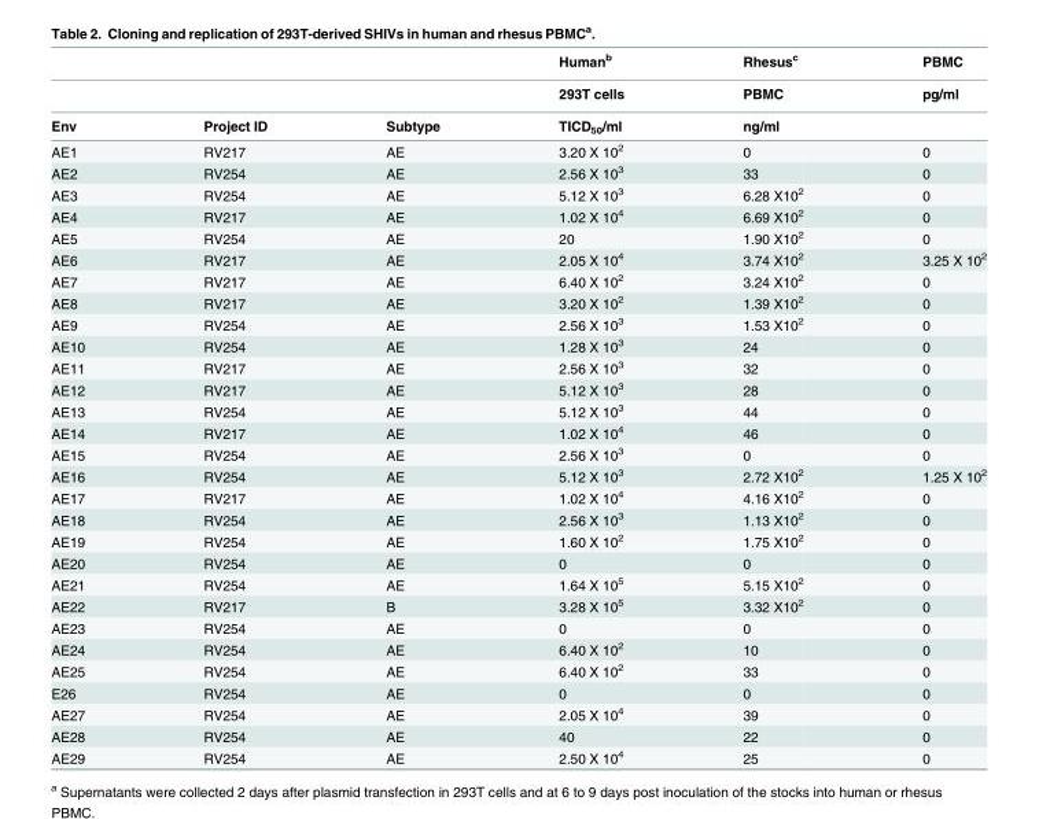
<table><thead><tr><td rowspan="3">Env</td><td rowspan="3">Project ID</td><td rowspan="3">Subtype</td><td rowspan="3">Human<sup>b</sup> 293T cells TICD<sub>50</sub>/ml</td><td rowspan="3">Rhesus<sup>c</sup> PBMC ng/ml</td><td rowspan="3">PBMC pg/ml</td></tr><tr></tr><tr></tr></thead><tbody><tr><td>AE1</td><td>RV217</td><td>AE</td><td>3.20 X 10<sup>2</sup></td><td>0</td><td>0</td></tr><tr><td>AE2</td><td>RV254</td><td>AE</td><td>2.56 X 10<sup>3</sup></td><td>33</td><td>0</td></tr><tr><td>AE3</td><td>RV254</td><td>AE</td><td>5.12 X 10<sup>3</sup></td><td>6.28 X10<sup>2</sup></td><td>0</td></tr><tr><td>AE4</td><td>RV217</td><td>AE</td><td>1.02 X 10<sup>4</sup></td><td>6.69 X10<sup>2</sup></td><td>0</td></tr><tr><td>AE5</td><td>RV254</td><td>AE</td><td>20</td><td>1.90 X10<sup>2</sup></td><td>0</td></tr><tr><td>AE6</td><td>RV217</td><td>AE</td><td>2.05 X 10<sup>4</sup></td><td>3.74 X10<sup>2</sup></td><td>3.25 X 10<sup>2</sup></td></tr><tr><td>AE7</td><td>RV217</td><td>AE</td><td>6.40 X 10<sup>2</sup></td><td>3.24 X10<sup>2</sup></td><td>0</td></tr><tr><td>AE8</td><td>RV217</td><td>AE</td><td>3.20 X 10<sup>2</sup></td><td>1.39 X10<sup>2</sup></td><td>0</td></tr><tr><td>AE9</td><td>RV254</td><td>AE</td><td>2.56 X 10<sup>3</sup></td><td>1.53 X10<sup>2</sup></td><td>0</td></tr><tr><td>AE10</td><td>RV254</td><td>AE</td><td>1.28 X 10<sup>3</sup></td><td>24</td><td>0</td></tr><tr><td>AE11</td><td>RV217</td><td>AE</td><td>2.56 X 10<sup>3</sup></td><td>32</td><td>0</td></tr><tr><td>AE12</td><td>RV217</td><td>AE</td><td>5.12 X 10<sup>3</sup></td><td>28</td><td>0</td></tr><tr><td>AE13</td><td>RV254</td><td>AE</td><td>5.12 X 10<sup>3</sup></td><td>44</td><td>0</td></tr><tr><td>AE14</td><td>RV217</td><td>AE</td><td>1.02 X 10<sup>4</sup></td><td>46</td><td>0</td></tr><tr><td>AE15</td><td>RV254</td><td>AE</td><td>2.56 X 10<sup>3</sup></td><td>0</td><td>0</td></tr><tr><td>AE16</td><td>RV254</td><td>AE</td><td>5.12 X 10<sup>3</sup></td><td>2.72 X10<sup>2</sup></td><td>1.25 X 10<sup>2</sup></td></tr><tr><td>AE17</td><td>RV217</td><td>AE</td><td>1.02 X 10<sup>4</sup></td><td>4.16 X10<sup>2</sup></td><td>0</td></tr><tr><td>AE18</td><td>RV254</td><td>AE</td><td>2.56 X 10<sup>3</sup></td><td>1.13 X10<sup>2</sup></td><td>0</td></tr><tr><td>AE19</td><td>RV254</td><td>AE</td><td>1.60 X 10<sup>2</sup></td><td>1.75 X10<sup>2</sup></td><td>0</td></tr><tr><td>AE20</td><td>RV254</td><td>AE</td><td>0</td><td>0</td><td>0</td></tr><tr><td>AE21</td><td>RV254</td><td>AE</td><td>1.64 X 10<sup>5</sup></td><td>5.15 X10<sup>2</sup></td><td>0</td></tr><tr><td>AE22</td><td>RV217</td><td>B</td><td>3.28 X 10<sup>5</sup></td><td>3.32 X10<sup>2</sup></td><td>0</td></tr><tr><td>AE23</td><td>RV254</td><td>AE</td><td>0</td><td>0</td><td>0</td></tr><tr><td>AE24</td><td>RV254</td><td>AE</td><td>6.40 X 10<sup>2</sup></td><td>10</td><td>0</td></tr><tr><td>AE25</td><td>RV254</td><td>AE</td><td>6.40 X 10<sup>2</sup></td><td>33</td><td>0</td></tr><tr><td>E26</td><td>RV254</td><td>AE</td><td>0</td><td>0</td><td>0</td></tr><tr><td>AE27</td><td>RV254</td><td>AE</td><td>2.05 X 10<sup>4</sup></td><td>39</td><td>0</td></tr><tr><td>AE28</td><td>RV254</td><td>AE</td><td>40</td><td>22</td><td>0</td></tr><tr><td>AE29</td><td>RV254</td><td>AE</td><td>2.50 X 10<sup>4</sup></td><td>25</td><td>0</td></tr></tbody></table>